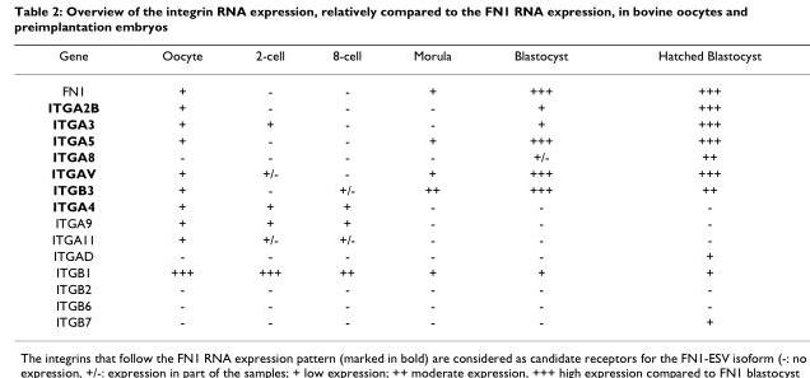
<table><thead><tr><td>Gene</td><td>Oocyte</td><td>2-cell</td><td>8-cell</td><td>Morula</td><td>Blastocyst</td><td>Hatched Blastocyst</td></tr></thead><tbody><tr><td>FN1</td><td>+</td><td>-</td><td>-</td><td>+</td><td>+++</td><td>+++</td></tr><tr><td>ITGA2B</td><td>+</td><td>-</td><td>-</td><td>-</td><td>+</td><td>+++</td></tr><tr><td>ITGA3</td><td>+</td><td>+</td><td>-</td><td>-</td><td>+</td><td>+++</td></tr><tr><td>ITGA5</td><td>+</td><td>-</td><td>-</td><td>+</td><td>+++</td><td>+++</td></tr><tr><td>ITGA8</td><td>-</td><td>-</td><td>-</td><td>-</td><td>+/-</td><td>++</td></tr><tr><td>ITGAV</td><td>+</td><td>+/-</td><td>-</td><td>+</td><td>+++</td><td>+++</td></tr><tr><td>ITGB3</td><td>+</td><td>-</td><td>+/-</td><td>++</td><td>+++</td><td>++</td></tr><tr><td>ITGA4</td><td>+</td><td>+</td><td>+</td><td>-</td><td>-</td><td>-</td></tr><tr><td>ITGA9</td><td>+</td><td>+</td><td>+</td><td>-</td><td>-</td><td>-</td></tr><tr><td>ITGA11</td><td>+</td><td>+/-</td><td>+/-</td><td>-</td><td>-</td><td>-</td></tr><tr><td>ITGAD</td><td>-</td><td>-</td><td>-</td><td>-</td><td>-</td><td>+</td></tr><tr><td>ITGB1</td><td>+++</td><td>+++</td><td>++</td><td>+</td><td>+</td><td>+</td></tr><tr><td>ITGB2</td><td>-</td><td>-</td><td>-</td><td>-</td><td>-</td><td>-</td></tr><tr><td>ITGB6</td><td>-</td><td>-</td><td>-</td><td>-</td><td>-</td><td>-</td></tr><tr><td>ITGB7</td><td>-</td><td>-</td><td>-</td><td>-</td><td>-</td><td>+</td></tr></tbody></table>